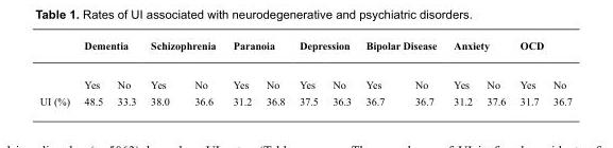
<table><thead><tr><td rowspan="2"></td><td colspan="2">Dementia</td><td colspan="2">Schizophrenia</td><td colspan="2">Paranoia</td><td colspan="2">Depression</td><td colspan="2">Bipolar Disease</td><td colspan="2">Anxiety</td><td colspan="2">OCD</td></tr><tr><td>Yes</td><td>No</td><td>Yes</td><td>No</td><td>Yes</td><td>No</td><td>Yes</td><td>No</td><td>Yes</td><td>No</td><td>Yes</td><td>No</td><td>Yes</td><td>No</td></tr></thead><tbody><tr><td>UI (%)</td><td>48.5</td><td>33.3</td><td>38.0</td><td>36.6</td><td>31.2</td><td>36.8</td><td>37.5</td><td>36.3</td><td>36.7</td><td>36.7</td><td>31.2</td><td>37.6</td><td>31.7</td><td>36.7</td></tr></tbody></table>